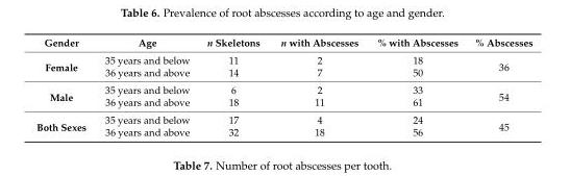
<table><thead><tr><td>Gender</td><td>Age</td><td>n Skeletons</td><td>n with Abscesses</td><td>% with Abscesses</td><td>% Abscesses</td></tr></thead><tbody><tr><td rowspan="2">Female</td><td>35 years and below</td><td>11</td><td>2</td><td>18</td><td rowspan="2">36</td></tr><tr><td>36 years and above</td><td>14</td><td>7</td><td>50</td></tr><tr><td rowspan="2">Male</td><td>35 years and below</td><td>6</td><td>2</td><td>33</td><td rowspan="2">54</td></tr><tr><td>36 years and above</td><td>18</td><td>11</td><td>61</td></tr><tr><td rowspan="2">Both Sexes</td><td>35 years and below</td><td>17</td><td>4</td><td>24</td><td rowspan="2">45</td></tr><tr><td>36 years and above</td><td>32</td><td>18</td><td>56</td></tr></tbody></table>